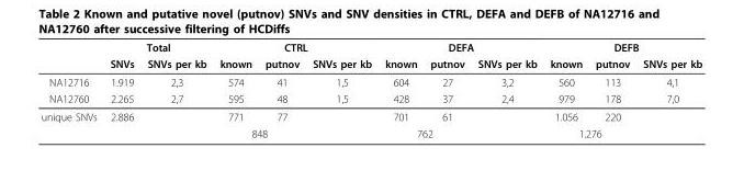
<table><thead><tr><td rowspan="2"></td><td colspan="2">Total</td><td colspan="3">CTRL</td><td colspan="3">DEFA</td><td colspan="3">DEFB</td></tr><tr><td>SNVs</td><td>SNVs per kb</td><td>known</td><td>putnov</td><td>SNVs per kb</td><td>known</td><td>putnov</td><td>SNVs per kb</td><td>known</td><td>putnov</td><td>SNVs per kb</td></tr></thead><tbody><tr><td>NA12716</td><td>1.919</td><td>2,3</td><td>574</td><td>41</td><td>1,5</td><td>604</td><td>27</td><td>3,2</td><td>560</td><td>113</td><td>4,1</td></tr><tr><td>NA12760</td><td>2.265</td><td>2,7</td><td>595</td><td>48</td><td>1,5</td><td>428</td><td>37</td><td>2,4</td><td>979</td><td>178</td><td>7,0</td></tr><tr><td rowspan="2">unique SNVs</td><td>2.886</td><td></td><td>771</td><td>77</td><td></td><td>701</td><td>61</td><td></td><td>1.056</td><td>220</td><td></td></tr><tr><td></td><td></td><td colspan="2">848</td><td></td><td colspan="2">762</td><td></td><td colspan="2">1.276</td><td></td></tr></tbody></table>